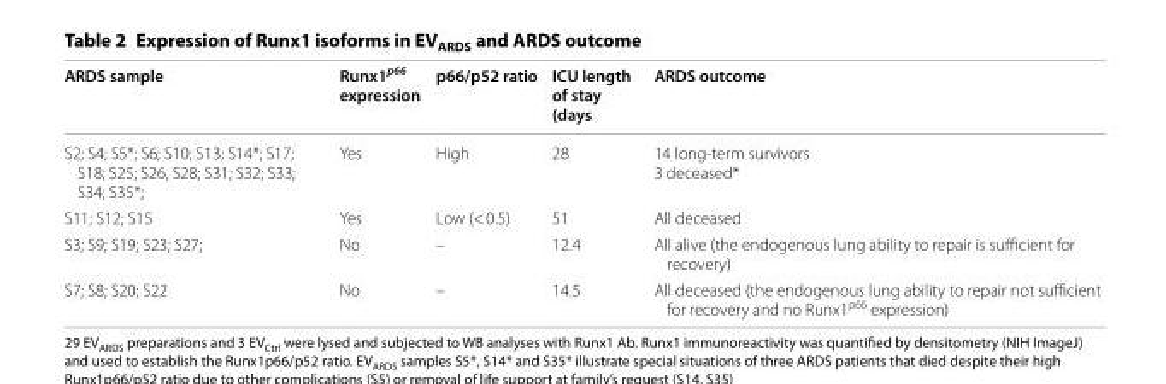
<table><thead><tr><td>ARDS sample</td><td>Runx1<sup>p66</sup> expression</td><td>p66/p52 ratio</td><td>ICU length of stay (days</td><td>ARDS outcome</td></tr></thead><tbody><tr><td>S2; S4; S5*; S6; S10; S13; S14*; S17; S18; S25; S26, S28; S31; S32; S33; S34; S35*;</td><td>Yes</td><td>High</td><td>28</td><td>14 long-term survivors 3 deceased*</td></tr><tr><td>S11; S12; S15</td><td>Yes</td><td>Low (&lt; 0.5)</td><td>51</td><td>All deceased</td></tr><tr><td>S3; S9; S19; S23; S27;</td><td>No</td><td>–</td><td>12.4</td><td>All alive (the endogenous lung ability to repair is sufficient for recovery)</td></tr><tr><td>S7; S8; S20; S22</td><td>No</td><td>–</td><td>14.5</td><td>All deceased (the endogenous lung ability to repair not sufficient for recovery and no Runx1<sup>p66</sup> expression)</td></tr></tbody></table>